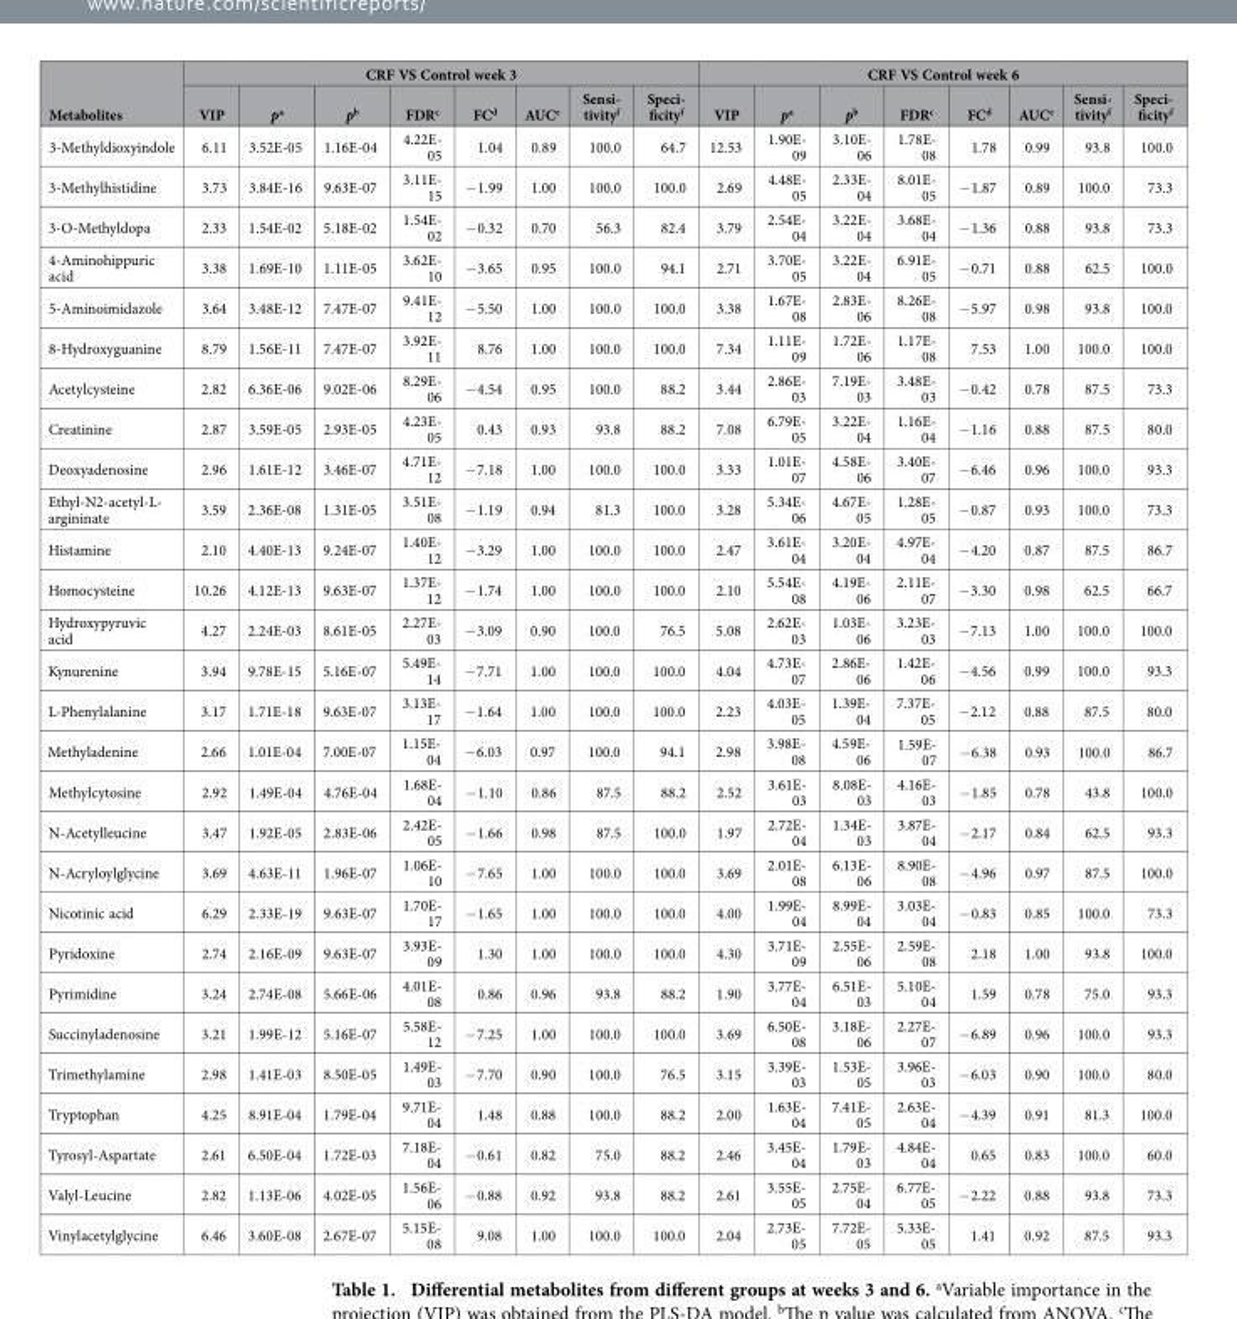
<table><thead><tr><td rowspan="2">Metabolites</td><td colspan="8">CRF VS Control week 3</td><td colspan="8">CRF VS Control week 6</td></tr><tr><td>VIP</td><td>p<sup>a</sup></td><td>p<sup>b</sup></td><td>FDR<sup>c</sup></td><td>FC<sup>d</sup></td><td>AUC<sup>e</sup></td><td>Sensi- tivityf</td><td>Speci- ficityf</td><td>VIP</td><td>p<sup>a</sup></td><td>p<sup>b</sup></td><td>FDR<sup>c</sup></td><td>FC<sup>d</sup></td><td>AUC<sup>e</sup></td><td>Sensi- tivityf</td><td>Speci- ficityf</td></tr></thead><tbody><tr><td>3-Methyldioxyindole</td><td>6.11</td><td>3.52E-05</td><td>1.16E-04</td><td>4.22E- 05</td><td>1.04</td><td>0.89</td><td>100.0</td><td>64.7</td><td>12.53</td><td>1.90E- 09</td><td>3.10E- 06</td><td>1.78E- 08</td><td>1.78</td><td>0.99</td><td>93.8</td><td>100.0</td></tr><tr><td>3-Methylhistidine</td><td>3.73</td><td>3.84E-16</td><td>9.63E-07</td><td>3.11E- 15</td><td>− 1.99</td><td>1.00</td><td>100.0</td><td>100.0</td><td>2.69</td><td>4.48E- 05</td><td>2.33E- 04</td><td>8.01E- 05</td><td>− 1.87</td><td>0.89</td><td>100.0</td><td>73.3</td></tr><tr><td>3-O-Methyldopa</td><td>2.33</td><td>1.54E-02</td><td>5.18E-02</td><td>1.54E- 02</td><td>− 0.32</td><td>0.70</td><td>56.3</td><td>82.4</td><td>3.79</td><td>2.54E- 04</td><td>3.22E- 04</td><td>3.68E- 04</td><td>− 1.36</td><td>0.88</td><td>93.8</td><td>73.3</td></tr><tr><td>4-Aminohippuric acid</td><td>3.38</td><td>1.69E-10</td><td>1.11E-05</td><td>3.62E- 10</td><td>− 3.65</td><td>0.95</td><td>100.0</td><td>94.1</td><td>2.71</td><td>3.70E- 05</td><td>3.22E- 04</td><td>6.91E- 05</td><td>− 0.71</td><td>0.88</td><td>62.5</td><td>100.0</td></tr><tr><td>5-Aminoimidazole</td><td>3.64</td><td>3.48E-12</td><td>7.47E-07</td><td>9.41E- 12</td><td>− 5.50</td><td>1.00</td><td>100.0</td><td>100.0</td><td>3.38</td><td>1.67E- 08</td><td>2.83E- 06</td><td>8.26E- 08</td><td>− 5.97</td><td>0.98</td><td>93.8</td><td>100.0</td></tr><tr><td>8-Hydroxyguanine</td><td>8.79</td><td>1.56E-11</td><td>7.47E-07</td><td>3.92E- 11</td><td>8.76</td><td>1.00</td><td>100.0</td><td>100.0</td><td>7.34</td><td>1.11E- 09</td><td>1.72E- 06</td><td>1.17E- 08</td><td>7.53</td><td>1.00</td><td>100.0</td><td>100.0</td></tr><tr><td>Acetylcysteine</td><td>2.82</td><td>6.36E-06</td><td>9.02E-06</td><td>8.29E- 06</td><td>− 4.54</td><td>0.95</td><td>100.0</td><td>88.2</td><td>3.44</td><td>2.86E- 03</td><td>7.19E- 03</td><td>3.48E- 03</td><td>− 0.42</td><td>0.78</td><td>87.5</td><td>73.3</td></tr><tr><td>Creatinine</td><td>2.87</td><td>3.59E-05</td><td>2.93E-05</td><td>4.23E- 05</td><td>0.43</td><td>0.93</td><td>93.8</td><td>88.2</td><td>7.08</td><td>6.79E- 05</td><td>3.22E- 04</td><td>1.16E- 04</td><td>− 1.16</td><td>0.88</td><td>87.5</td><td>80.0</td></tr><tr><td>Deoxyadenosine</td><td>2.96</td><td>1.61E-12</td><td>3.46E-07</td><td>4.71E- 12</td><td>− 7.18</td><td>1.00</td><td>100.0</td><td>100.0</td><td>3.33</td><td>1.01E- 07</td><td>4.58E- 06</td><td>3.40E- 07</td><td>− 6.46</td><td>0.96</td><td>100.0</td><td>93.3</td></tr><tr><td>Ethyl-N2-acetyl-L- argininate</td><td>3.59</td><td>2.36E-08</td><td>1.31E-05</td><td>3.51E- 08</td><td>− 1.19</td><td>0.94</td><td>81.3</td><td>100.0</td><td>3.28</td><td>5.34E- 06</td><td>4.67E- 05</td><td>1.28E- 05</td><td>− 0.87</td><td>0.93</td><td>100.0</td><td>73.3</td></tr><tr><td>Histamine</td><td>2.10</td><td>4.40E-13</td><td>9.24E-07</td><td>1.40E- 12</td><td>− 3.29</td><td>1.00</td><td>100.0</td><td>100.0</td><td>2.47</td><td>3.61E- 04</td><td>3.20E- 04</td><td>4.97E- 04</td><td>− 4.20</td><td>0.87</td><td>87.5</td><td>86.7</td></tr><tr><td>Homocysteine</td><td>10.26</td><td>4.12E-13</td><td>9.63E-07</td><td>1.37E- 12</td><td>− 1.74</td><td>1.00</td><td>100.0</td><td>100.0</td><td>2.10</td><td>5.54E- 08</td><td>4.19E- 06</td><td>2.11E- 07</td><td>− 3.30</td><td>0.98</td><td>62.5</td><td>66.7</td></tr><tr><td>Hydroxypyruvic acid</td><td>4.27</td><td>2.24E-03</td><td>8.61E-05</td><td>2.27E- 03</td><td>− 3.09</td><td>0.90</td><td>100.0</td><td>76.5</td><td>5.08</td><td>2.62E- 03</td><td>1.03E- 06</td><td>3.23E- 03</td><td>− 7.13</td><td>1.00</td><td>100.0</td><td>100.0</td></tr><tr><td>Kynurenine</td><td>3.94</td><td>9.78E-15</td><td>5.16E-07</td><td>5.49E- 14</td><td>− 7.71</td><td>1.00</td><td>100.0</td><td>100.0</td><td>4.04</td><td>4.73E- 07</td><td>2.86E- 06</td><td>1.42E- 06</td><td>− 4.56</td><td>0.99</td><td>100.0</td><td>93.3</td></tr><tr><td>L-Phenylalanine</td><td>3.17</td><td>1.71E-18</td><td>9.63E-07</td><td>3.13E- 17</td><td>− 1.64</td><td>1.00</td><td>100.0</td><td>100.0</td><td>2.23</td><td>4.03E- 05</td><td>1.39E- 04</td><td>7.37E- 05</td><td>− 2.12</td><td>0.88</td><td>87.5</td><td>80.0</td></tr><tr><td>Methyladenine</td><td>2.66</td><td>1.01E-04</td><td>7.00E-07</td><td>1.15E- 04</td><td>− 6.03</td><td>0.97</td><td>100.0</td><td>94.1</td><td>2.98</td><td>3.98E- 08</td><td>4.59E- 06</td><td>1.59E- 07</td><td>− 6.38</td><td>0.93</td><td>100.0</td><td>86.7</td></tr><tr><td>Methylcytosine</td><td>2.92</td><td>1.49E-04</td><td>4.76E-04</td><td>1.68E- 04</td><td>− 1.10</td><td>0.86</td><td>87.5</td><td>88.2</td><td>2.52</td><td>3.61E- 03</td><td>8.08E- 03</td><td>4.16E- 03</td><td>− 1.85</td><td>0.78</td><td>43.8</td><td>100.0</td></tr><tr><td>N-Acetylleucine</td><td>3.47</td><td>1.92E-05</td><td>2.83E-06</td><td>2.42E- 05</td><td>− 1.66</td><td>0.98</td><td>87.5</td><td>100.0</td><td>1.97</td><td>2.72E- 04</td><td>1.34E- 03</td><td>3.87E- 04</td><td>− 2.17</td><td>0.84</td><td>62.5</td><td>93.3</td></tr><tr><td>N-Acryloylglycine</td><td>3.69</td><td>4.63E-11</td><td>1.96E-07</td><td>1.06E- 10</td><td>− 7.65</td><td>1.00</td><td>100.0</td><td>100.0</td><td>3.69</td><td>2.01E- 08</td><td>6.13E- 06</td><td>8.90E- 08</td><td>− 4.96</td><td>0.97</td><td>87.5</td><td>100.0</td></tr><tr><td>Nicotinic acid</td><td>6.29</td><td>2.33E-19</td><td>9.63E-07</td><td>1.70E- 17</td><td>− 1.65</td><td>1.00</td><td>100.0</td><td>100.0</td><td>4.00</td><td>1.99E- 04</td><td>8.99E- 04</td><td>3.03E- 04</td><td>− 0.83</td><td>0.85</td><td>100.0</td><td>73.3</td></tr><tr><td>Pyridoxine</td><td>2.74</td><td>2.16E-09</td><td>9.63E-07</td><td>3.93E- 09</td><td>1.30</td><td>1.00</td><td>100.0</td><td>100.0</td><td>4.30</td><td>3.71E- 09</td><td>2.55E- 06</td><td>2.59E- 08</td><td>2.18</td><td>1.00</td><td>93.8</td><td>100.0</td></tr><tr><td>Pyrimidine</td><td>3.24</td><td>2.74E-08</td><td>5.66E-06</td><td>4.01E- 08</td><td>0.86</td><td>0.96</td><td>93.8</td><td>88.2</td><td>1.90</td><td>3.77E- 04</td><td>6.51E- 03</td><td>5.10E- 04</td><td>1.59</td><td>0.78</td><td>75.0</td><td>93.3</td></tr><tr><td>Succinyladenosine</td><td>3.21</td><td>1.99E-12</td><td>5.16E-07</td><td>5.58E- 12</td><td>− 7.25</td><td>1.00</td><td>100.0</td><td>100.0</td><td>3.69</td><td>6.50E- 08</td><td>3.18E- 06</td><td>2.27E- 07</td><td>− 6.89</td><td>0.96</td><td>100.0</td><td>93.3</td></tr><tr><td>Trimethylamine</td><td>2.98</td><td>1.41E-03</td><td>8.50E-05</td><td>1.49E- 03</td><td>− 7.70</td><td>0.90</td><td>100.0</td><td>76.5</td><td>3.15</td><td>3.39E- 03</td><td>1.53E- 05</td><td>3.96E- 03</td><td>− 6.03</td><td>0.90</td><td>100.0</td><td>80.0</td></tr><tr><td>Tryptophan</td><td>4.25</td><td>8.91E-04</td><td>1.79E-04</td><td>9.71E- 04</td><td>1.48</td><td>0.88</td><td>100.0</td><td>88.2</td><td>2.00</td><td>1.63E- 04</td><td>7.41E- 05</td><td>2.63E- 04</td><td>− 4.39</td><td>0.91</td><td>81.3</td><td>100.0</td></tr><tr><td>Tyrosyl-Aspartate</td><td>2.61</td><td>6.50E-04</td><td>1.72E-03</td><td>7.18E- 04</td><td>− 0.61</td><td>0.82</td><td>75.0</td><td>88.2</td><td>2.46</td><td>3.45E- 04</td><td>1.79E- 03</td><td>4.84E- 04</td><td>0.65</td><td>0.83</td><td>100.0</td><td>60.0</td></tr><tr><td>Valyl-Leucine</td><td>2.82</td><td>1.13E-06</td><td>4.02E-05</td><td>1.56E- 06</td><td>− 0.88</td><td>0.92</td><td>93.8</td><td>88.2</td><td>2.61</td><td>3.55E- 05</td><td>2.75E- 04</td><td>6.77E- 05</td><td>− 2.22</td><td>0.88</td><td>93.8</td><td>73.3</td></tr><tr><td>Vinylacetylglycine</td><td>6.46</td><td>3.60E-08</td><td>2.67E-07</td><td>5.15E- 08</td><td>9.08</td><td>1.00</td><td>100.0</td><td>100.0</td><td>2.04</td><td>2.73E- 05</td><td>7.72E- 05</td><td>5.33E- 05</td><td>1.41</td><td>0.92</td><td>87.5</td><td>93.3</td></tr></tbody></table>